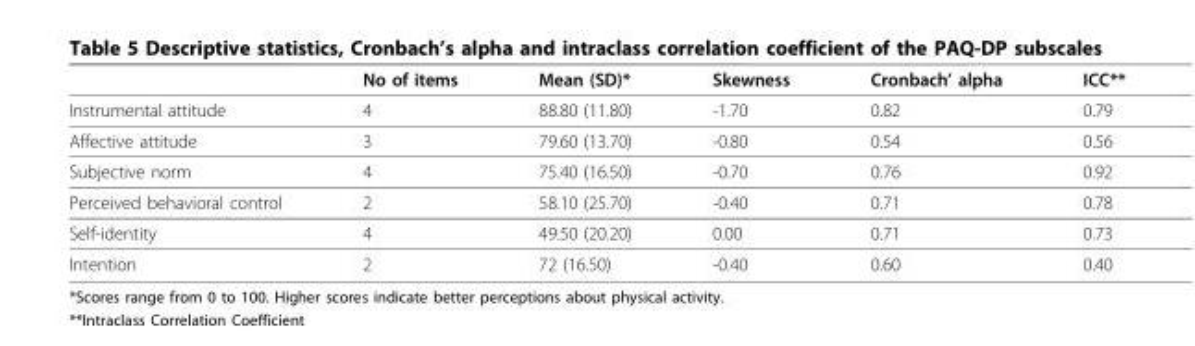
<table><thead><tr><td></td><td>No of items</td><td>Mean (SD)*</td><td>Skewness</td><td>Cronbach’ alpha</td><td>ICC**</td></tr></thead><tbody><tr><td>Instrumental attitude</td><td>4</td><td>88.80 (11.80)</td><td>-1.70</td><td>0.82</td><td>0.79</td></tr><tr><td>Affective attitude</td><td>3</td><td>79.60 (13.70)</td><td>-0.80</td><td>0.54</td><td>0.56</td></tr><tr><td>Subjective norm</td><td>4</td><td>75.40 (16.50)</td><td>-0.70</td><td>0.76</td><td>0.92</td></tr><tr><td>Perceived behavioral control</td><td>2</td><td>58.10 (25.70)</td><td>-0.40</td><td>0.71</td><td>0.78</td></tr><tr><td>Self-identity</td><td>4</td><td>49.50 (20.20)</td><td>0.00</td><td>0.71</td><td>0.73</td></tr><tr><td>Intention</td><td>2</td><td>72 (16.50)</td><td>-0.40</td><td>0.60</td><td>0.40</td></tr></tbody></table>